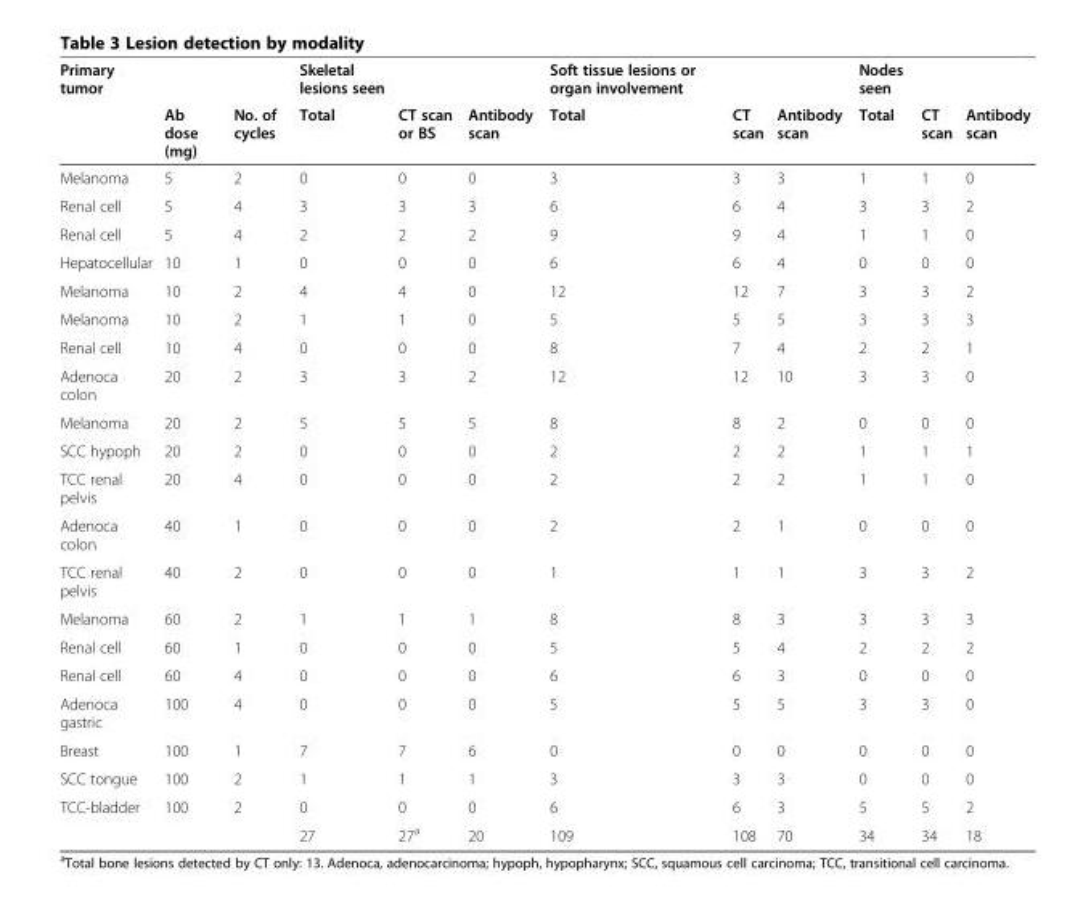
<table><thead><tr><td rowspan="2">Primary tumor</td><td rowspan="2">Ab dose (mg)</td><td rowspan="2">No. of cycles</td><td rowspan="2">Skeletal lesions seen Total</td><td rowspan="2">CT scan or BS</td><td rowspan="2">Antibody scan</td><td rowspan="2">Soft tissue lesions or organ involvement Total</td><td rowspan="2">CT scan</td><td rowspan="2">Antibody scan</td><td rowspan="2">Nodes seen Total</td><td rowspan="2">CT scan</td><td rowspan="2">Antibody scan</td></tr><tr></tr></thead><tbody><tr><td>Melanoma</td><td>5</td><td>2</td><td>0</td><td>0</td><td>0</td><td>3</td><td>3</td><td>3</td><td>1</td><td>1</td><td>0</td></tr><tr><td>Renal cell</td><td>5</td><td>4</td><td>3</td><td>3</td><td>3</td><td>6</td><td>6</td><td>4</td><td>3</td><td>3</td><td>2</td></tr><tr><td>Renal cell</td><td>5</td><td>4</td><td>2</td><td>2</td><td>2</td><td>9</td><td>9</td><td>4</td><td>1</td><td>1</td><td>0</td></tr><tr><td>Hepatocellular</td><td>10</td><td>1</td><td>0</td><td>0</td><td>0</td><td>6</td><td>6</td><td>4</td><td>0</td><td>0</td><td>0</td></tr><tr><td>Melanoma</td><td>10</td><td>2</td><td>4</td><td>4</td><td>0</td><td>12</td><td>12</td><td>7</td><td>3</td><td>3</td><td>2</td></tr><tr><td>Melanoma</td><td>10</td><td>2</td><td>1</td><td>1</td><td>0</td><td>5</td><td>5</td><td>5</td><td>3</td><td>3</td><td>3</td></tr><tr><td>Renal cell</td><td>10</td><td>4</td><td>0</td><td>0</td><td>0</td><td>8</td><td>7</td><td>4</td><td>2</td><td>2</td><td>1</td></tr><tr><td>Adenoca colon</td><td>20</td><td>2</td><td>3</td><td>3</td><td>2</td><td>12</td><td>12</td><td>10</td><td>3</td><td>3</td><td>0</td></tr><tr><td>Melanoma</td><td>20</td><td>2</td><td>5</td><td>5</td><td>5</td><td>8</td><td>8</td><td>2</td><td>0</td><td>0</td><td>0</td></tr><tr><td>SCC hypoph</td><td>20</td><td>2</td><td>0</td><td>0</td><td>0</td><td>2</td><td>2</td><td>2</td><td>1</td><td>1</td><td>1</td></tr><tr><td>TCC renal pelvis</td><td>20</td><td>4</td><td>0</td><td>0</td><td>0</td><td>2</td><td>2</td><td>2</td><td>1</td><td>1</td><td>0</td></tr><tr><td>Adenoca colon</td><td>40</td><td>1</td><td>0</td><td>0</td><td>0</td><td>2</td><td>2</td><td>1</td><td>0</td><td>0</td><td>0</td></tr><tr><td>TCC renal pelvis</td><td>40</td><td>2</td><td>0</td><td>0</td><td>0</td><td>1</td><td>1</td><td>1</td><td>3</td><td>3</td><td>2</td></tr><tr><td>Melanoma</td><td>60</td><td>2</td><td>1</td><td>1</td><td>1</td><td>8</td><td>8</td><td>3</td><td>3</td><td>3</td><td>3</td></tr><tr><td>Renal cell</td><td>60</td><td>1</td><td>0</td><td>0</td><td>0</td><td>5</td><td>5</td><td>4</td><td>2</td><td>2</td><td>2</td></tr><tr><td>Renal cell</td><td>60</td><td>4</td><td>0</td><td>0</td><td>0</td><td>6</td><td>6</td><td>3</td><td>0</td><td>0</td><td>0</td></tr><tr><td>Adenoca gastric</td><td>100</td><td>4</td><td>0</td><td>0</td><td>0</td><td>5</td><td>5</td><td>5</td><td>3</td><td>3</td><td>0</td></tr><tr><td>Breast</td><td>100</td><td>1</td><td>7</td><td>7</td><td>6</td><td>0</td><td>0</td><td>0</td><td>0</td><td>0</td><td>0</td></tr><tr><td>SCC tongue</td><td>100</td><td>2</td><td>1</td><td>1</td><td>1</td><td>3</td><td>3</td><td>3</td><td>0</td><td>0</td><td>0</td></tr><tr><td rowspan="2">TCC-bladder</td><td>100</td><td>2</td><td>0</td><td>0</td><td>0</td><td>6</td><td>6</td><td>3</td><td>5</td><td>5</td><td>2</td></tr><tr><td></td><td></td><td>27</td><td>27<sup>a</sup></td><td>20</td><td>109</td><td>108</td><td>70</td><td>34</td><td>34</td><td>18</td></tr></tbody></table>